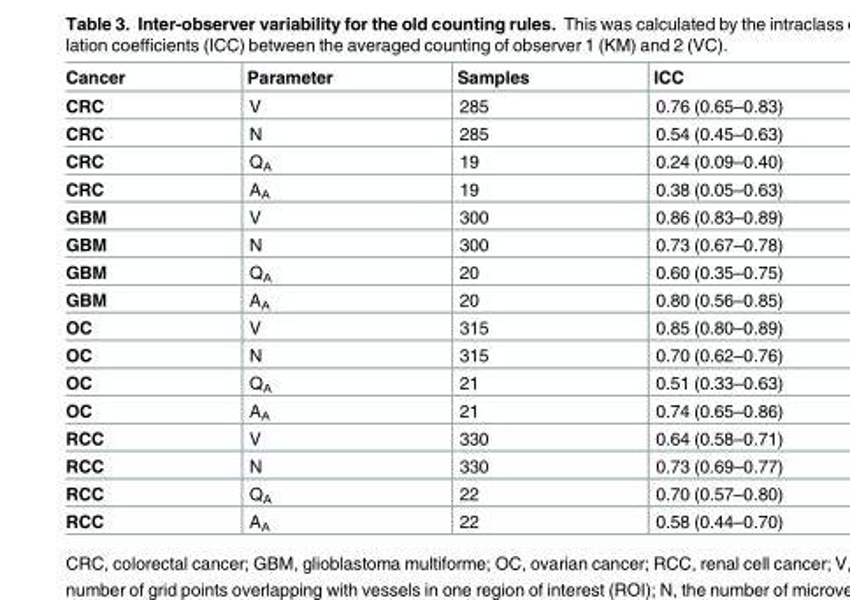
<table><thead><tr><td>Cancer</td><td>Parameter</td><td>Samples</td><td>ICC</td></tr></thead><tbody><tr><td>CRC</td><td>V</td><td>285</td><td>0.76 (0.65–0.83)</td></tr><tr><td>CRC</td><td>N</td><td>285</td><td>0.54 (0.45–0.63)</td></tr><tr><td>CRC</td><td>Q<sub>A</sub></td><td>19</td><td>0.24 (0.09–0.40)</td></tr><tr><td>CRC</td><td>A<sub>A</sub></td><td>19</td><td>0.38 (0.05–0.63)</td></tr><tr><td>GBM</td><td>V</td><td>300</td><td>0.86 (0.83–0.89)</td></tr><tr><td>GBM</td><td>N</td><td>300</td><td>0.73 (0.67–0.78)</td></tr><tr><td>GBM</td><td>Q<sub>A</sub></td><td>20</td><td>0.60 (0.35–0.75)</td></tr><tr><td>GBM</td><td>A<sub>A</sub></td><td>20</td><td>0.80 (0.56–0.85)</td></tr><tr><td>OC</td><td>V</td><td>315</td><td>0.85 (0.80–0.89)</td></tr><tr><td>OC</td><td>N</td><td>315</td><td>0.70 (0.62–0.76)</td></tr><tr><td>OC</td><td>Q<sub>A</sub></td><td>21</td><td>0.51 (0.33–0.63)</td></tr><tr><td>OC</td><td>A<sub>A</sub></td><td>21</td><td>0.74 (0.65–0.86)</td></tr><tr><td>RCC</td><td>V</td><td>330</td><td>0.64 (0.58–0.71)</td></tr><tr><td>RCC</td><td>N</td><td>330</td><td>0.73 (0.69–0.77)</td></tr><tr><td>RCC</td><td>Q<sub>A</sub></td><td>22</td><td>0.70 (0.57–0.80)</td></tr><tr><td>RCC</td><td>A<sub>A</sub></td><td>22</td><td>0.58 (0.44–0.70)</td></tr></tbody></table>